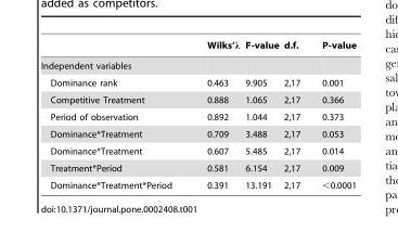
<table><thead><tr><td></td><td>Wilks’λ</td><td>F-value</td><td>d.f.</td><td>P-value</td></tr></thead><tbody><tr><td colspan="5">Independent variables</td></tr><tr><td>Dominance rank</td><td>0.463</td><td>9.905</td><td>2,17</td><td>0.001</td></tr><tr><td>Competitive Treatment</td><td>0.888</td><td>1.065</td><td>2,17</td><td>0.366</td></tr><tr><td>Period of observation</td><td>0.892</td><td>1.044</td><td>2,17</td><td>0.373</td></tr><tr><td>Dominance*Treatment</td><td>0.709</td><td>3.488</td><td>2,17</td><td>0.053</td></tr><tr><td>Dominance*Treatment</td><td>0.607</td><td>5.485</td><td>2,17</td><td>0.014</td></tr><tr><td>Treatment*Period</td><td>0.581</td><td>6.154</td><td>2,17</td><td>0.009</td></tr><tr><td>Dominance*Treatment*Period</td><td>0.391</td><td>13.191</td><td>2,17</td><td>&lt;0.0001</td></tr></tbody></table>